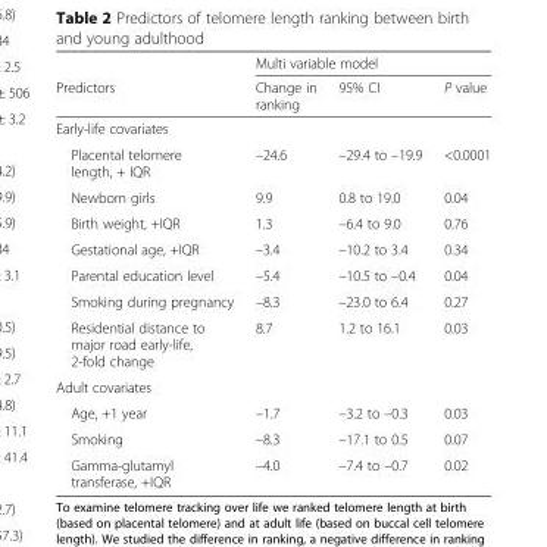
<table><thead><tr><td rowspan="2">Predictors</td><td colspan="3">Multi variable model</td></tr><tr><td>Change in ranking</td><td>95% CI</td><td>P value</td></tr></thead><tbody><tr><td colspan="4">Early-life covariates</td></tr><tr><td>Placental telomere length, + IQR</td><td>–24.6</td><td>–29.4 to –19.9</td><td>&lt;0.0001</td></tr><tr><td>Newborn girls</td><td>9.9</td><td>0.8 to 19.0</td><td>0.04</td></tr><tr><td>Birth weight, +IQR</td><td>1.3</td><td>–6.4 to 9.0</td><td>0.76</td></tr><tr><td>Gestational age, +IQR</td><td>–3.4</td><td>–10.2 to 3.4</td><td>0.34</td></tr><tr><td>Parental education level</td><td>–5.4</td><td>–10.5 to –0.4</td><td>0.04</td></tr><tr><td>Smoking during pregnancy</td><td>–8.3</td><td>–23.0 to 6.4</td><td>0.27</td></tr><tr><td>Residential distance to major road early-life, 2-fold change</td><td>8.7</td><td>1.2 to 16.1</td><td>0.03</td></tr><tr><td colspan="4">Adult covariates</td></tr><tr><td>Age, +1 year</td><td>–1.7</td><td>–3.2 to –0.3</td><td>0.03</td></tr><tr><td>Smoking</td><td>–8.3</td><td>–17.1 to 0.5</td><td>0.07</td></tr><tr><td>Gamma-glutamyl transferase, +IQR</td><td>–4.0</td><td>–7.4 to –0.7</td><td>0.02</td></tr></tbody></table>